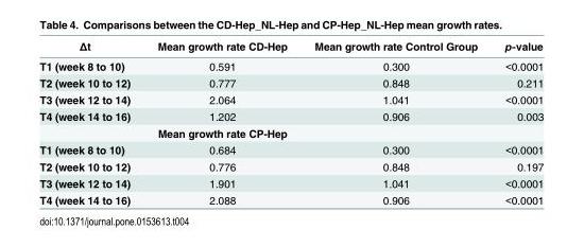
<table><thead><tr><td>Δt</td><td>Mean growth rate CD-Hep</td><td>Mean growth rate Control Group</td><td>p-value</td></tr></thead><tbody><tr><td>T1 (week 8 to 10)</td><td>0.591</td><td>0.300</td><td>&lt;0.0001</td></tr><tr><td>T2 (week 10 to 12)</td><td>0.777</td><td>0.848</td><td>0.211</td></tr><tr><td>T3 (week 12 to 14)</td><td>2.064</td><td>1.041</td><td>&lt;0.0001</td></tr><tr><td rowspan="2">T4 (week 14 to 16)</td><td>1.202</td><td>0.906</td><td>0.003</td></tr><tr><td>Mean growth rate CP-Hep</td><td></td><td></td></tr><tr><td>T1 (week 8 to 10)</td><td>0.684</td><td>0.300</td><td>&lt;0.0001</td></tr><tr><td>T2 (week 10 to 12)</td><td>0.776</td><td>0.848</td><td>0.197</td></tr><tr><td>T3 (week 12 to 14)</td><td>1.901</td><td>1.041</td><td>&lt;0.0001</td></tr><tr><td>T4 (week 14 to 16)</td><td>2.088</td><td>0.906</td><td>&lt;0.0001</td></tr></tbody></table>